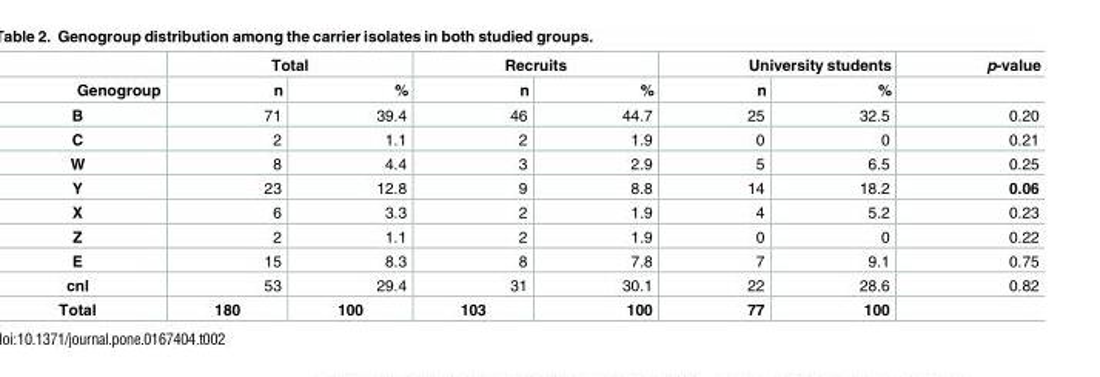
<table><thead><tr><td rowspan="2">Genogroup</td><td colspan="2">Total</td><td colspan="2">Recruits</td><td colspan="2">University students</td><td rowspan="2">p-value</td></tr><tr><td>n</td><td>%</td><td>n</td><td>%</td><td>n</td><td>%</td></tr></thead><tbody><tr><td>B</td><td>71</td><td>39.4</td><td>46</td><td>44.7</td><td>25</td><td>32.5</td><td>0.20</td></tr><tr><td>C</td><td>2</td><td>1.1</td><td>2</td><td>1.9</td><td>0</td><td>0</td><td>0.21</td></tr><tr><td>W</td><td>8</td><td>4.4</td><td>3</td><td>2.9</td><td>5</td><td>6.5</td><td>0.25</td></tr><tr><td>Y</td><td>23</td><td>12.8</td><td>9</td><td>8.8</td><td>14</td><td>18.2</td><td>0.06</td></tr><tr><td>X</td><td>6</td><td>3.3</td><td>2</td><td>1.9</td><td>4</td><td>5.2</td><td>0.23</td></tr><tr><td>Z</td><td>2</td><td>1.1</td><td>2</td><td>1.9</td><td>0</td><td>0</td><td>0.22</td></tr><tr><td>E</td><td>15</td><td>8.3</td><td>8</td><td>7.8</td><td>7</td><td>9.1</td><td>0.75</td></tr><tr><td>cnl</td><td>53</td><td>29.4</td><td>31</td><td>30.1</td><td>22</td><td>28.6</td><td>0.82</td></tr><tr><td>Total</td><td>180</td><td>100</td><td>103</td><td>100</td><td>77</td><td>100</td><td></td></tr></tbody></table>